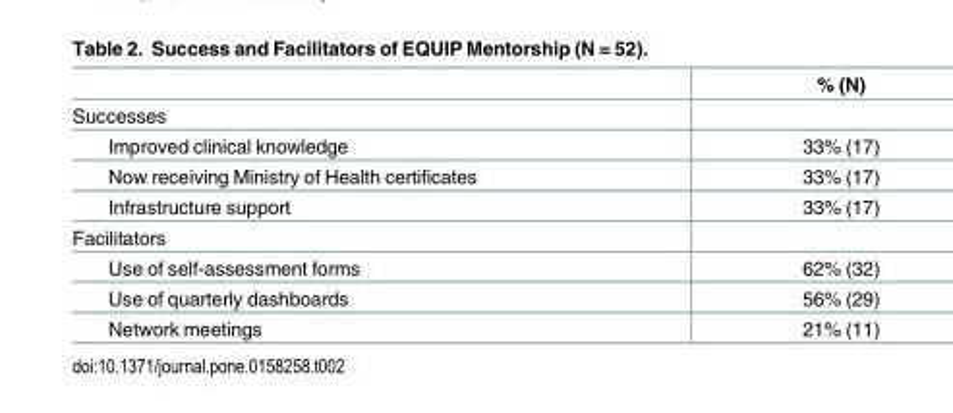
<table><thead><tr><td></td><td>% (N)</td></tr></thead><tbody><tr><td colspan="2">Successes</td></tr><tr><td>Improved clinical knowledge</td><td>33% (17)</td></tr><tr><td>Now receiving Ministry of Health certificates</td><td>33% (17)</td></tr><tr><td>Infrastructure support</td><td>33% (17)</td></tr><tr><td colspan="2">Facilitators</td></tr><tr><td>Use of self-assessment forms</td><td>62% (32)</td></tr><tr><td>Use of quarterly dashboards</td><td>56% (29)</td></tr><tr><td>Network meetings</td><td>21% (11)</td></tr></tbody></table>